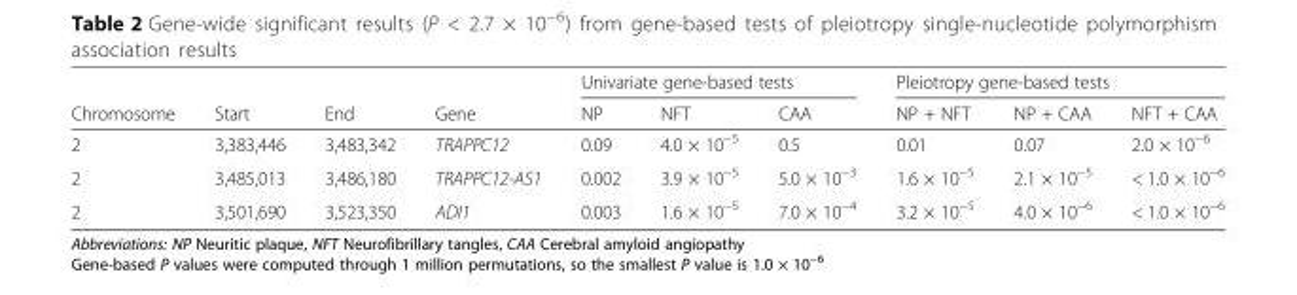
<table><thead><tr><td rowspan="2">Chromosome</td><td rowspan="2">Start</td><td rowspan="2">End</td><td rowspan="2">Gene</td><td colspan="3">Univariate gene-based tests</td><td colspan="3">Pleiotropy gene-based tests</td></tr><tr><td>NP</td><td>NFT</td><td>CAA</td><td>NP + NFT</td><td>NP + CAA</td><td>NFT + CAA</td></tr></thead><tbody><tr><td>2</td><td>3,383,446</td><td>3,483,342</td><td>TRAPPC12</td><td>0.09</td><td>4.0 × 10<sup>−5</sup></td><td>0.5</td><td>0.01</td><td>0.07</td><td>2.0 × 10<sup>−6</sup></td></tr><tr><td>2</td><td>3,485,013</td><td>3,486,180</td><td>TRAPPC12-AS1</td><td>0.002</td><td>3.9 × 10<sup>−5</sup></td><td>5.0 × 10<sup>−3</sup></td><td>1.6 × 10<sup>−5</sup></td><td>2.1 × 10<sup>−5</sup></td><td>&lt; 1.0 × 10<sup>−6</sup></td></tr><tr><td>2</td><td>3,501,690</td><td>3,523,350</td><td>ADI1</td><td>0.003</td><td>1.6 × 10<sup>−5</sup></td><td>7.0 × 10<sup>−4</sup></td><td>3.2 × 10<sup>−5</sup></td><td>4.0 × 10<sup>−6</sup></td><td>&lt; 1.0 × 10<sup>−6</sup></td></tr></tbody></table>